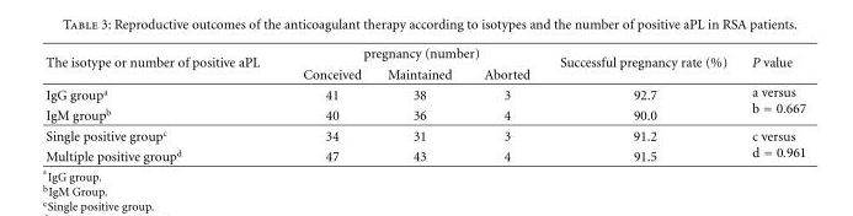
<table><thead><tr><td rowspan="2">The isotype or number of positive aPL</td><td colspan="3">pregnancy (number)</td><td rowspan="2">Successful pregnancy rate (%)</td><td rowspan="2">P value</td></tr><tr><td>Conceived</td><td>Maintained</td><td>Aborted</td></tr></thead><tbody><tr><td>IgG group<sup>a</sup></td><td>41</td><td>38</td><td>3</td><td>92.7</td><td rowspan="2">a versus b = 0.667</td></tr><tr><td>IgM group<sup>b</sup></td><td>40</td><td>36</td><td>4</td><td>90.0</td></tr><tr><td>Single positive group<sup>c</sup></td><td>34</td><td>31</td><td>3</td><td>91.2</td><td rowspan="2">c versus d = 0.961</td></tr><tr><td>Multiple positive group<sup>d</sup></td><td>47</td><td>43</td><td>4</td><td>91.5</td></tr></tbody></table>